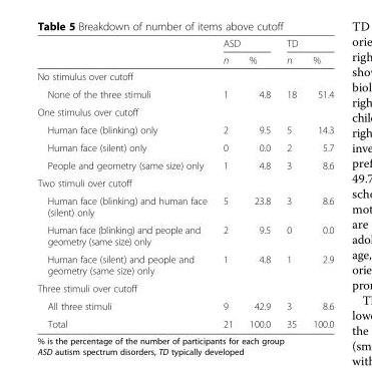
<table><thead><tr><td rowspan="2"></td><td colspan="2">ASD</td><td colspan="2">TD</td></tr><tr><td>n</td><td>%</td><td>n</td><td>%</td></tr></thead><tbody><tr><td colspan="5">No stimulus over cutoff</td></tr><tr><td>None of the three stimuli</td><td>1</td><td>4.8</td><td>18</td><td>51.4</td></tr><tr><td colspan="5">One stimulus over cutoff</td></tr><tr><td>Human face (blinking) only</td><td>2</td><td>9.5</td><td>5</td><td>14.3</td></tr><tr><td>Human face (silent) only</td><td>0</td><td>0.0</td><td>2</td><td>5.7</td></tr><tr><td>People and geometry (same size) only</td><td>1</td><td>4.8</td><td>3</td><td>8.6</td></tr><tr><td colspan="5">Two stimuli over cutoff</td></tr><tr><td>Human face (blinking) and human face (silent) only</td><td>5</td><td>23.8</td><td>3</td><td>8.6</td></tr><tr><td>Human face (blinking) and people and geometry (same size) only</td><td>2</td><td>9.5</td><td>0</td><td>0.0</td></tr><tr><td>Human face (silent) and people and geometry (same size) only</td><td>1</td><td>4.8</td><td>1</td><td>2.9</td></tr><tr><td colspan="5">Three stimuli over cutoff</td></tr><tr><td>All three stimuli</td><td>9</td><td>42.9</td><td>3</td><td>8.6</td></tr><tr><td>Total</td><td>21</td><td>100.0</td><td>35</td><td>100.0</td></tr></tbody></table>